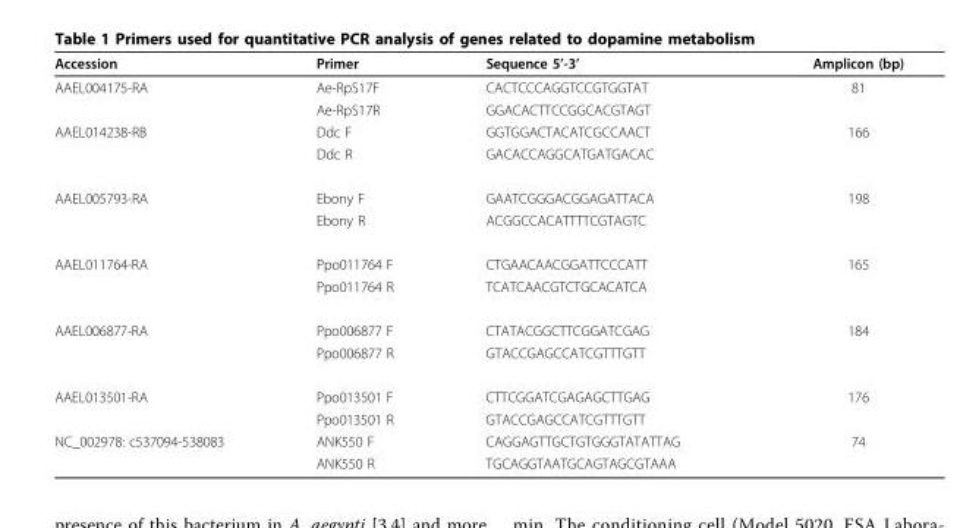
<table><thead><tr><td>Accession</td><td>Primer</td><td>Sequence 5’-3’</td><td>Amplicon (bp)</td></tr></thead><tbody><tr><td rowspan="2">AAEL004175-RA</td><td>Ae-RpS17F</td><td>CACTCCCAGGTCCGTGGTAT</td><td>81</td></tr><tr><td>Ae-RpS17R</td><td>GGACACTTCCGGCACGTAGT</td><td></td></tr><tr><td rowspan="2">AAEL014238-RB</td><td>Ddc F</td><td>GGTGGACTACATCGCCAACT</td><td>166</td></tr><tr><td>Ddc R</td><td>GACACCAGGCATGATGACAC</td><td></td></tr><tr><td rowspan="2">AAEL005793-RA</td><td>Ebony F</td><td>GAATCGGGACGGAGATTACA</td><td>198</td></tr><tr><td>Ebony R</td><td>ACGGCCACATTTTCGTAGTC</td><td></td></tr><tr><td rowspan="2">AAEL011764-RA</td><td>Ppo011764 F</td><td>CTGAACAACGGATTCCCATT</td><td>165</td></tr><tr><td>Ppo011764 R</td><td>TCATCAACGTCTGCACATCA</td><td></td></tr><tr><td rowspan="2">AAEL006877-RA</td><td>Ppo006877 F</td><td>CTATACGGCTTCGGATCGAG</td><td>184</td></tr><tr><td>Ppo006877 R</td><td>GTACCGAGCCATCGTTTGTT</td><td></td></tr><tr><td rowspan="2">AAEL013501-RA</td><td>Ppo013501 F</td><td>CTTCGGATCGAGAGCTTGAG</td><td>176</td></tr><tr><td>Ppo013501 R</td><td>GTACCGAGCCATCGTTTGTT</td><td></td></tr><tr><td rowspan="2">NC_002978: c537094-538083</td><td>ANK550 F</td><td>CAGGAGTTGCTGTGGGTATATTAG</td><td>74</td></tr><tr><td>ANK550 R</td><td>TGCAGGTAATGCAGTAGCGTAAA</td><td></td></tr></tbody></table>